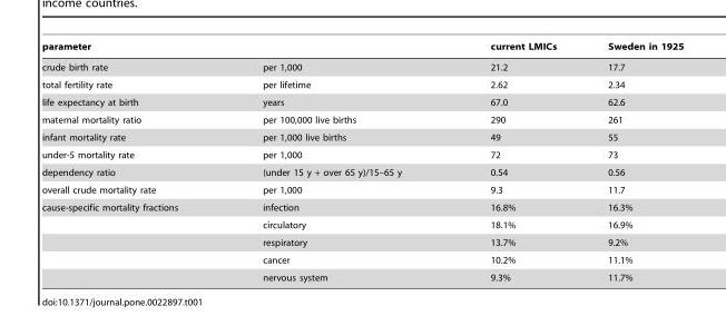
<table><thead><tr><td colspan="2">parameter</td><td rowspan="2">current LMICs 21.2</td><td rowspan="2">Sweden in 1925 17.7</td></tr><tr><td>crude birth rate</td><td>per 1,000</td></tr></thead><tbody><tr><td>total fertility rate</td><td>per lifetime</td><td>2.62</td><td>2.34</td></tr><tr><td>life expectancy at birth</td><td>years</td><td>67.0</td><td>62.6</td></tr><tr><td>maternal mortality ratio</td><td>per 100,000 live births</td><td>290</td><td>261</td></tr><tr><td>infant mortality rate</td><td>per 1,000 live births</td><td>49</td><td>55</td></tr><tr><td>under-5 mortality rate</td><td>per 1,000</td><td>72</td><td>73</td></tr><tr><td>dependency ratio</td><td>(under 15 y + over 65 y)/15–65 y</td><td>0.54</td><td>0.56</td></tr><tr><td>overall crude mortality rate</td><td>per 1,000</td><td>9.3</td><td>11.7</td></tr><tr><td rowspan="5">cause-specific mortality fractions</td><td>infection</td><td>16.8%</td><td>16.3%</td></tr><tr><td>circulatory</td><td>18.1%</td><td>16.9%</td></tr><tr><td>respiratory</td><td>13.7%</td><td>9.2%</td></tr><tr><td>cancer</td><td>10.2%</td><td>11.1%</td></tr><tr><td>nervous system</td><td>9.3%</td><td>11.7%</td></tr></tbody></table>